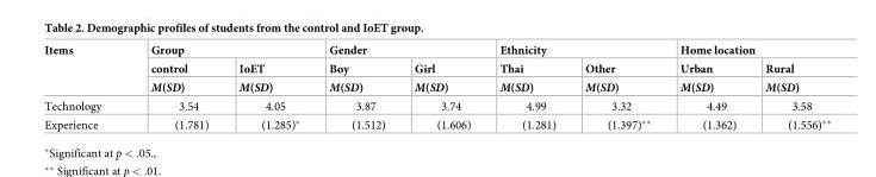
<table><thead><tr><td rowspan="3">Items</td><td colspan="2">Group</td><td colspan="2">Gender</td><td colspan="2">Ethnicity</td><td colspan="2">Home location</td></tr><tr><td rowspan="2">control M(SD)</td><td rowspan="2">IoET M(SD)</td><td rowspan="2">Boy M(SD)</td><td rowspan="2">Girl M(SD)</td><td rowspan="2">Thai M(SD)</td><td rowspan="2">Other M(SD)</td><td rowspan="2">Urban M(SD)</td><td rowspan="2">Rural M(SD)</td></tr><tr></tr></thead><tbody><tr><td>Technology</td><td>3.54</td><td>4.05</td><td>3.87</td><td>3.74</td><td>4.99</td><td>3.32</td><td>4.49</td><td>3.58</td></tr><tr><td>Experience</td><td>(1.781)</td><td>(1.285)*</td><td>(1.512)</td><td>(1.606)</td><td>(1.281)</td><td>(1.397)**</td><td>(1.362)</td><td>(1.556)**</td></tr></tbody></table>